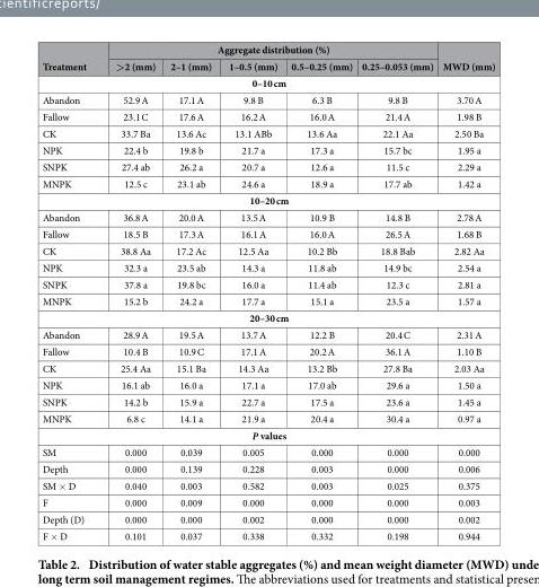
<table><thead><tr><td rowspan="2">Treatment</td><td colspan="5">Aggregate distribution (%)</td><td rowspan="2">MWD (mm)</td></tr><tr><td>&gt;2 (mm)</td><td>2–1 (mm)</td><td>1–0.5 (mm)</td><td>0.5–0.25 (mm)</td><td>0.25–0.053 (mm)</td></tr></thead><tbody><tr><td colspan="7">0–10 cm</td></tr><tr><td>Abandon</td><td>52.9 A</td><td>17.1 A</td><td>9.8 B</td><td>6.3 B</td><td>9.8 B</td><td>3.70 A</td></tr><tr><td>Fallow</td><td>23.1 C</td><td>17.6 A</td><td>16.2 A</td><td>16.0 A</td><td>21.4 A</td><td>1.98 B</td></tr><tr><td>CK</td><td>33.7 Ba</td><td>13.6 Ac</td><td>13.1 ABb</td><td>13.6 Aa</td><td>22.1 Aa</td><td>2.50 Ba</td></tr><tr><td>NPK</td><td>22.4 b</td><td>19.8 b</td><td>21.7 a</td><td>17.3 a</td><td>15.7 bc</td><td>1.95 a</td></tr><tr><td>SNPK</td><td>27.4 ab</td><td>26.2 a</td><td>20.7 a</td><td>12.6 a</td><td>11.5 c</td><td>2.29 a</td></tr><tr><td>MNPK</td><td>12.5 c</td><td>23.1 ab</td><td>24.6 a</td><td>18.9 a</td><td>17.7 ab</td><td>1.42 a</td></tr><tr><td colspan="7">10–20 cm</td></tr><tr><td>Abandon</td><td>36.8 A</td><td>20.0 A</td><td>13.5 A</td><td>10.9 B</td><td>14.8 B</td><td>2.78 A</td></tr><tr><td>Fallow</td><td>18.5 B</td><td>17.3 A</td><td>16.1 A</td><td>16.0 A</td><td>26.5 A</td><td>1.68 B</td></tr><tr><td>CK</td><td>38.8 Aa</td><td>17.2 Ac</td><td>12.5 Aa</td><td>10.2 Bb</td><td>18.8 Bab</td><td>2.82 Aa</td></tr><tr><td>NPK</td><td>32.3 a</td><td>23.5 ab</td><td>14.3 a</td><td>11.8 ab</td><td>14.9 bc</td><td>2.54 a</td></tr><tr><td>SNPK</td><td>37.8 a</td><td>19.8 bc</td><td>16.0 a</td><td>11.4 ab</td><td>12.3 c</td><td>2.81 a</td></tr><tr><td>MNPK</td><td>15.2 b</td><td>24.2 a</td><td>17.7 a</td><td>15.1 a</td><td>23.5 a</td><td>1.57 a</td></tr><tr><td colspan="7">20–30 cm</td></tr><tr><td>Abandon</td><td>28.9 A</td><td>19.5 A</td><td>13.7 A</td><td>12.2 B</td><td>20.4 C</td><td>2.31 A</td></tr><tr><td>Fallow</td><td>10.4 B</td><td>10.9 C</td><td>17.1 A</td><td>20.2 A</td><td>36.1 A</td><td>1.10 B</td></tr><tr><td>CK</td><td>25.4 Aa</td><td>15.1 Ba</td><td>14.3 Aa</td><td>13.2 Bb</td><td>27.8 Ba</td><td>2.03 Aa</td></tr><tr><td>NPK</td><td>16.1 ab</td><td>16.0 a</td><td>17.1 a</td><td>17.0 ab</td><td>29.6 a</td><td>1.50 a</td></tr><tr><td>SNPK</td><td>14.2 b</td><td>15.9 a</td><td>22.7 a</td><td>17.5 a</td><td>23.6 a</td><td>1.45 a</td></tr><tr><td>MNPK</td><td>6.8 c</td><td>14.1 a</td><td>21.9 a</td><td>20.4 a</td><td>30.4 a</td><td>0.97 a</td></tr><tr><td colspan="7">P values</td></tr><tr><td>SM</td><td>0.000</td><td>0.039</td><td>0.005</td><td>0.000</td><td>0.000</td><td>0.000</td></tr><tr><td>Depth</td><td>0.000</td><td>0.139</td><td>0.228</td><td>0.003</td><td>0.000</td><td>0.006</td></tr><tr><td>SM × D</td><td>0.040</td><td>0.003</td><td>0.582</td><td>0.003</td><td>0.025</td><td>0.375</td></tr><tr><td>F</td><td>0.000</td><td>0.009</td><td>0.000</td><td>0.000</td><td>0.000</td><td>0.003</td></tr><tr><td>Depth (D)</td><td>0.000</td><td>0.000</td><td>0.002</td><td>0.000</td><td>0.000</td><td>0.002</td></tr><tr><td>F × D</td><td>0.101</td><td>0.037</td><td>0.338</td><td>0.332</td><td>0.198</td><td>0.944</td></tr></tbody></table>